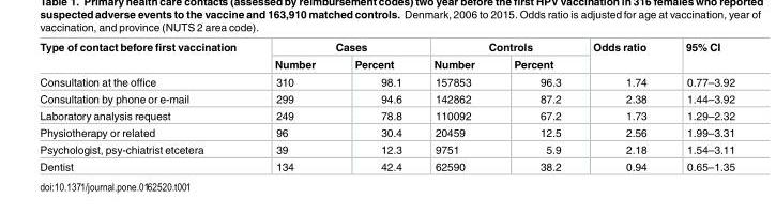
<table><thead><tr><td rowspan="2">Type of contact before first vaccination</td><td colspan="2">Cases</td><td colspan="2">Controls</td><td rowspan="2">Odds ratio</td><td rowspan="2">95% CI</td></tr><tr><td>Number</td><td>Percent</td><td>Number</td><td>Percent</td></tr></thead><tbody><tr><td>Consultation at the office</td><td>310</td><td>98.1</td><td>157853</td><td>96.3</td><td>1.74</td><td>0.77–3.92</td></tr><tr><td>Consultation by phone or e-mail</td><td>299</td><td>94.6</td><td>142862</td><td>87.2</td><td>2.38</td><td>1.44–3.92</td></tr><tr><td>Laboratory analysis request</td><td>249</td><td>78.8</td><td>110092</td><td>67.2</td><td>1.73</td><td>1.29–2.32</td></tr><tr><td>Physiotherapy or related</td><td>96</td><td>30.4</td><td>20459</td><td>12.5</td><td>2.56</td><td>1.99–3.31</td></tr><tr><td>Psychologist, psy-chiatrist etcetera</td><td>39</td><td>12.3</td><td>9751</td><td>5.9</td><td>2.18</td><td>1.54–3.11</td></tr><tr><td>Dentist</td><td>134</td><td>42.4</td><td>62590</td><td>38.2</td><td>0.94</td><td>0.65–1.35</td></tr></tbody></table>